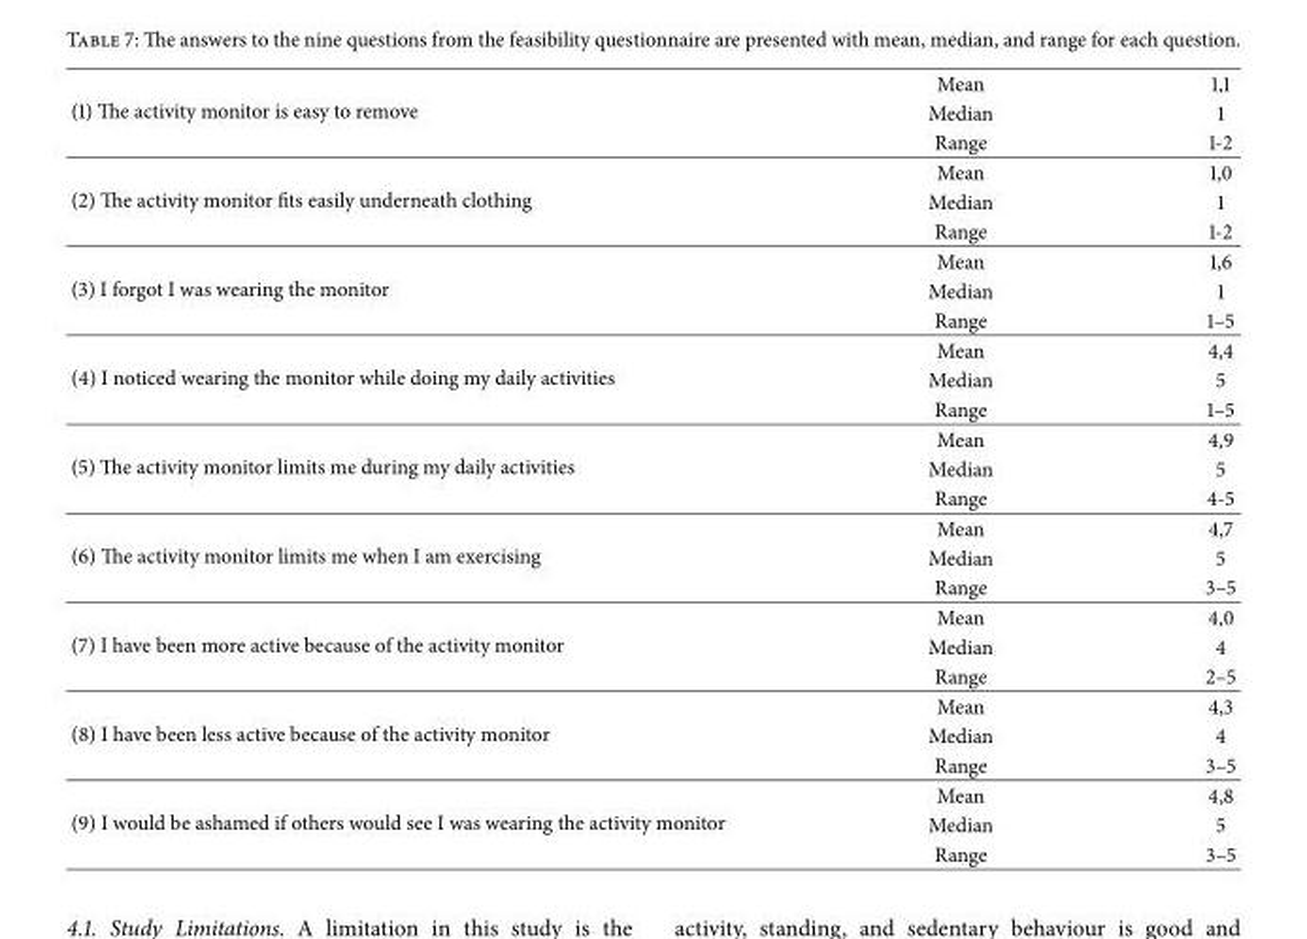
<table><tbody><tr><td rowspan="3">(1) The activity monitor is easy to remove</td><td>Mean</td><td>1,1</td></tr><tr><td>Median</td><td>1</td></tr><tr><td>Range</td><td>1-2</td></tr><tr><td rowspan="3">(2) The activity monitor fits easily underneath clothing</td><td>Mean</td><td>1,0</td></tr><tr><td>Median</td><td>1</td></tr><tr><td>Range</td><td>1-2</td></tr><tr><td rowspan="3">(3) I forgot I was wearing the monitor</td><td>Mean</td><td>1,6</td></tr><tr><td>Median</td><td>1</td></tr><tr><td>Range</td><td>1–5</td></tr><tr><td rowspan="3">(4) I noticed wearing the monitor while doing my daily activities</td><td>Mean</td><td>4,4</td></tr><tr><td>Median</td><td>5</td></tr><tr><td>Range</td><td>1–5</td></tr><tr><td rowspan="3">(5) The activity monitor limits me during my daily activities</td><td>Mean</td><td>4,9</td></tr><tr><td>Median</td><td>5</td></tr><tr><td>Range</td><td>4-5</td></tr><tr><td rowspan="3">(6) The activity monitor limits me when I am exercising</td><td>Mean</td><td>4,7</td></tr><tr><td>Median</td><td>5</td></tr><tr><td>Range</td><td>3–5</td></tr><tr><td rowspan="3">(7) I have been more active because of the activity monitor</td><td>Mean</td><td>4,0</td></tr><tr><td>Median</td><td>4</td></tr><tr><td>Range</td><td>2–5</td></tr><tr><td rowspan="3">(8) I have been less active because of the activity monitor</td><td>Mean</td><td>4,3</td></tr><tr><td>Median</td><td>4</td></tr><tr><td>Range</td><td>3–5</td></tr><tr><td rowspan="3">(9) I would be ashamed if others would see I was wearing the activity monitor</td><td>Mean</td><td>4,8</td></tr><tr><td>Median</td><td>5</td></tr><tr><td>Range</td><td>3–5</td></tr></tbody></table>